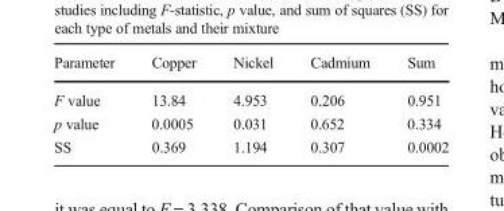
<table><thead><tr><td>Parameter</td><td>Copper</td><td>Nickel</td><td>Cadmium</td><td>Sum</td></tr></thead><tbody><tr><td>F value</td><td>13.84</td><td>4.953</td><td>0.206</td><td>0.951</td></tr><tr><td>p value</td><td>0.0005</td><td>0.031</td><td>0.652</td><td>0.334</td></tr><tr><td>SS</td><td>0.369</td><td>1.194</td><td>0.307</td><td>0.0002</td></tr></tbody></table>